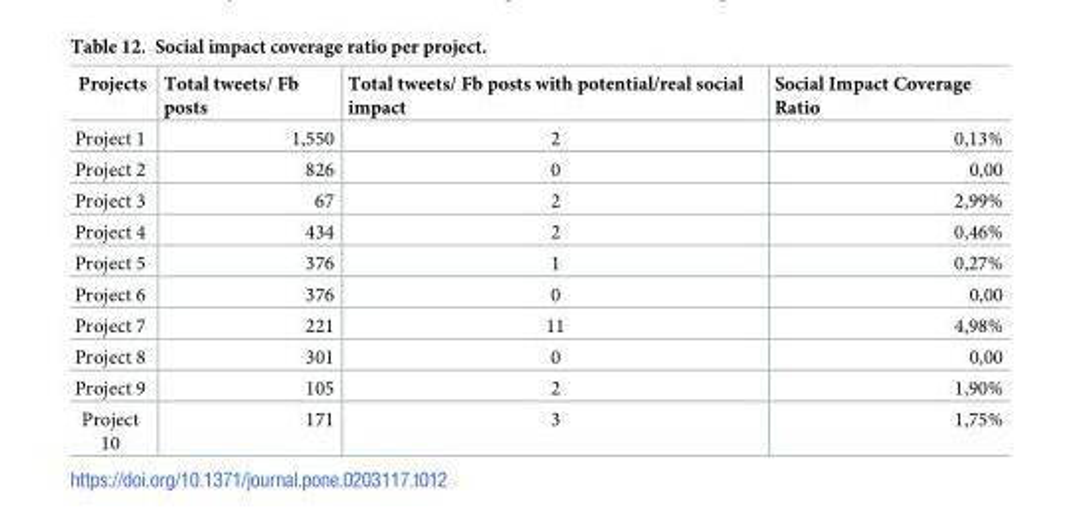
<table><thead><tr><td>Projects</td><td>Total tweets/ Fb posts</td><td>Total tweets/ Fb posts with potential/real social impact</td><td>Social Impact Coverage Ratio</td></tr></thead><tbody><tr><td>Project 1</td><td>1,550</td><td>2</td><td>0,13%</td></tr><tr><td>Project 2</td><td>826</td><td>0</td><td>0,00</td></tr><tr><td>Project 3</td><td>67</td><td>2</td><td>2,99%</td></tr><tr><td>Project 4</td><td>434</td><td>2</td><td>0,46%</td></tr><tr><td>Project 5</td><td>376</td><td>1</td><td>0,27%</td></tr><tr><td>Project 6</td><td>376</td><td>0</td><td>0,00</td></tr><tr><td>Project 7</td><td>221</td><td>11</td><td>4,98%</td></tr><tr><td>Project 8</td><td>301</td><td>0</td><td>0,00</td></tr><tr><td>Project 9</td><td>105</td><td>2</td><td>1,90%</td></tr><tr><td>Project 10</td><td>171</td><td>3</td><td>1,75%</td></tr></tbody></table>